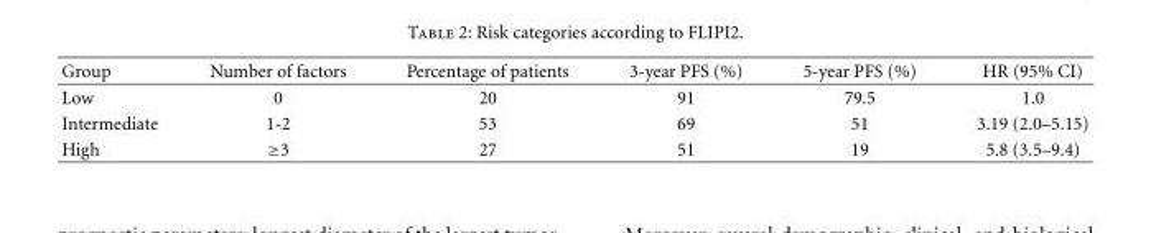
<table><thead><tr><td>Group</td><td>Number of factors</td><td>Percentage of patients</td><td>3-year PFS (%)</td><td>5-year PFS (%)</td><td>HR (95% CI)</td></tr></thead><tbody><tr><td>Low</td><td>0</td><td>20</td><td>91</td><td>79.5</td><td>1.0</td></tr><tr><td>Intermediate</td><td>1-2</td><td>53</td><td>69</td><td>51</td><td>3.19 (2.0–5.15)</td></tr><tr><td>High</td><td>≥3</td><td>27</td><td>51</td><td>19</td><td>5.8 (3.5–9.4)</td></tr></tbody></table>